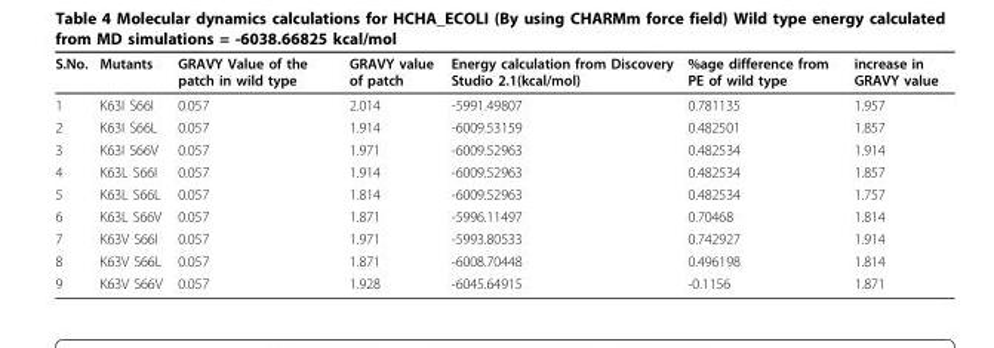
<table><thead><tr><td>S.No.</td><td>Mutants</td><td>GRAVY Value of the patch in wild type</td><td>GRAVY value of patch</td><td>Energy calculation from Discovery Studio 2.1(kcal/mol)</td><td>%age difference from PE of wild type</td><td>increase in GRAVY value</td></tr></thead><tbody><tr><td>1</td><td>K63I S66I</td><td>0.057</td><td>2.014</td><td>-5991.49807</td><td>0.781135</td><td>1.957</td></tr><tr><td>2</td><td>K63I S66L</td><td>0.057</td><td>1.914</td><td>-6009.53159</td><td>0.482501</td><td>1.857</td></tr><tr><td>3</td><td>K63I S66V</td><td>0.057</td><td>1.971</td><td>-6009.52963</td><td>0.482534</td><td>1.914</td></tr><tr><td>4</td><td>K63L S66I</td><td>0.057</td><td>1.914</td><td>-6009.52963</td><td>0.482534</td><td>1.857</td></tr><tr><td>5</td><td>K63L S66L</td><td>0.057</td><td>1.814</td><td>-6009.52963</td><td>0.482534</td><td>1.757</td></tr><tr><td>6</td><td>K63L S66V</td><td>0.057</td><td>1.871</td><td>-5996.11497</td><td>0.70468</td><td>1.814</td></tr><tr><td>7</td><td>K63V S66I</td><td>0.057</td><td>1.971</td><td>-5993.80533</td><td>0.742927</td><td>1.914</td></tr><tr><td>8</td><td>K63V S66L</td><td>0.057</td><td>1.871</td><td>-6008.70448</td><td>0.496198</td><td>1.814</td></tr><tr><td>9</td><td>K63V S66V</td><td>0.057</td><td>1.928</td><td>-6045.64915</td><td>-0.1156</td><td>1.871</td></tr></tbody></table>